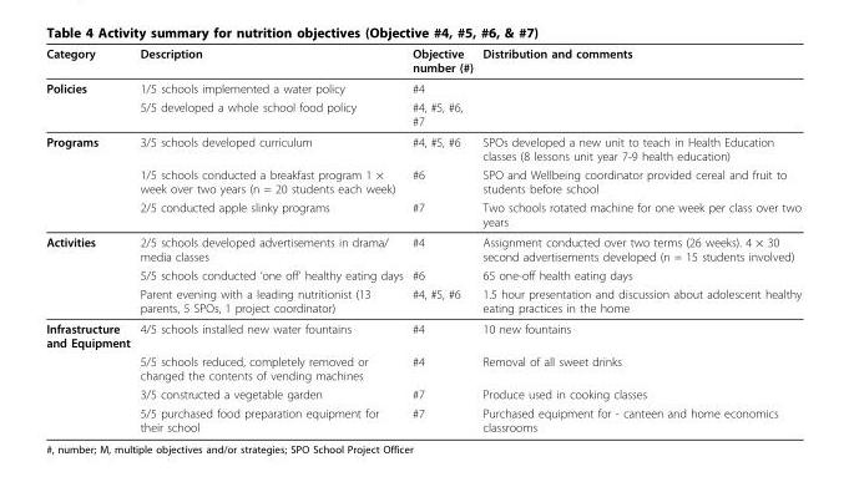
<table><thead><tr><td>Category</td><td>Description</td><td>Objective number (#)</td><td>Distribution and comments</td></tr></thead><tbody><tr><td rowspan="2">Policies</td><td>1/5 schools implemented a water policy</td><td>#4</td><td></td></tr><tr><td>5/5 developed a whole school food policy</td><td>#4, #5, #6, #7</td><td></td></tr><tr><td rowspan="3">Programs</td><td>3/5 schools developed curriculum</td><td>#4, #5, #6</td><td>SPOs developed a new unit to teach in Health Education classes (8 lessons unit year 7-9 health education)</td></tr><tr><td>1/5 schools conducted a breakfast program 1 × week over two years (n = 20 students each week)</td><td>#6</td><td>SPO and Wellbeing coordinator provided cereal and fruit to students before school</td></tr><tr><td>2/5 conducted apple slinky programs</td><td>#7</td><td>Two schools rotated machine for one week per class over two years</td></tr><tr><td rowspan="3">Activities</td><td>2/5 schools developed advertisements in drama/ media classes</td><td>#4</td><td>Assignment conducted over two terms (26 weeks). 4 × 30 second advertisements developed (n = 15 students involved)</td></tr><tr><td>5/5 schools conducted ‘one off’ healthy eating days</td><td>#6</td><td>65 one-off health eating days</td></tr><tr><td>Parent evening with a leading nutritionist (13 parents, 5 SPOs, 1 project coordinator)</td><td>#4, #5, #6</td><td>1.5 hour presentation and discussion about adolescent healthy eating practices in the home</td></tr><tr><td rowspan="4">Infrastructure and Equipment</td><td>4/5 schools installed new water fountains</td><td>#4</td><td>10 new fountains</td></tr><tr><td>5/5 schools reduced, completely removed or changed the contents of vending machines</td><td>#4</td><td>Removal of all sweet drinks</td></tr><tr><td>3/5 constructed a vegetable garden</td><td>#7</td><td>Produce used in cooking classes</td></tr><tr><td>5/5 purchased food preparation equipment for their school</td><td>#7</td><td>Purchased equipment for - canteen and home economics classrooms</td></tr></tbody></table>